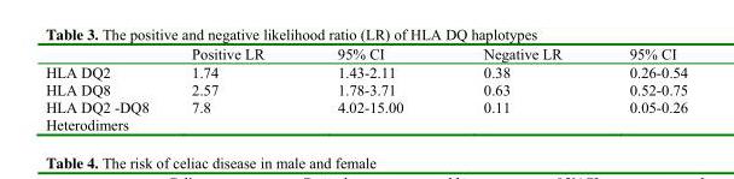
<table><thead><tr><td></td><td>Positive LR</td><td>95% CI</td><td>Negative LR</td><td>95% CI</td></tr></thead><tbody><tr><td>HLA DQ2</td><td>1.74</td><td>1.43-2.11</td><td>0.38</td><td>0.26-0.54</td></tr><tr><td>HLA DQ8</td><td>2.57</td><td>1.78-3.71</td><td>0.63</td><td>0.52-0.75</td></tr><tr><td>HLA DQ2 -DQ8 Heterodimers</td><td>7.8</td><td>4.02-15.00</td><td>0.11</td><td>0.05-0.26</td></tr></tbody></table>